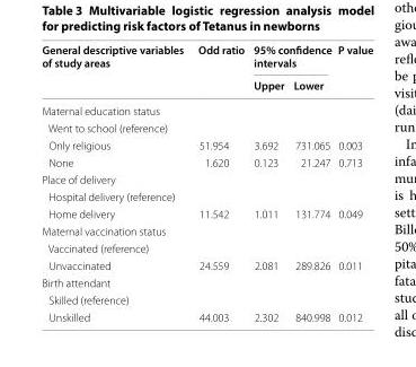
<table><thead><tr><td rowspan="2">General descriptive variables of study areas</td><td rowspan="2">Odd ratio</td><td colspan="2">95% confidence intervals</td><td rowspan="2">P value</td></tr><tr><td>Upper</td><td>Lower</td></tr></thead><tbody><tr><td colspan="5">Maternal education status</td></tr><tr><td colspan="5">Went to school (reference)</td></tr><tr><td>Only religious</td><td>51.954</td><td>3.692</td><td>731.065</td><td>0.003</td></tr><tr><td>None</td><td>1.620</td><td>0.123</td><td>21.247</td><td>0.713</td></tr><tr><td colspan="5">Place of delivery</td></tr><tr><td colspan="5">Hospital delivery (reference)</td></tr><tr><td>Home delivery</td><td>11.542</td><td>1.011</td><td>131.774</td><td>0.049</td></tr><tr><td colspan="5">Maternal vaccination status</td></tr><tr><td colspan="5">Vaccinated (reference)</td></tr><tr><td>Unvaccinated</td><td>24.559</td><td>2.081</td><td>289.826</td><td>0.011</td></tr><tr><td colspan="5">Birth attendant</td></tr><tr><td colspan="5">Skilled (reference)</td></tr><tr><td>Unskilled</td><td>44.003</td><td>2.302</td><td>840.998</td><td>0.012</td></tr></tbody></table>